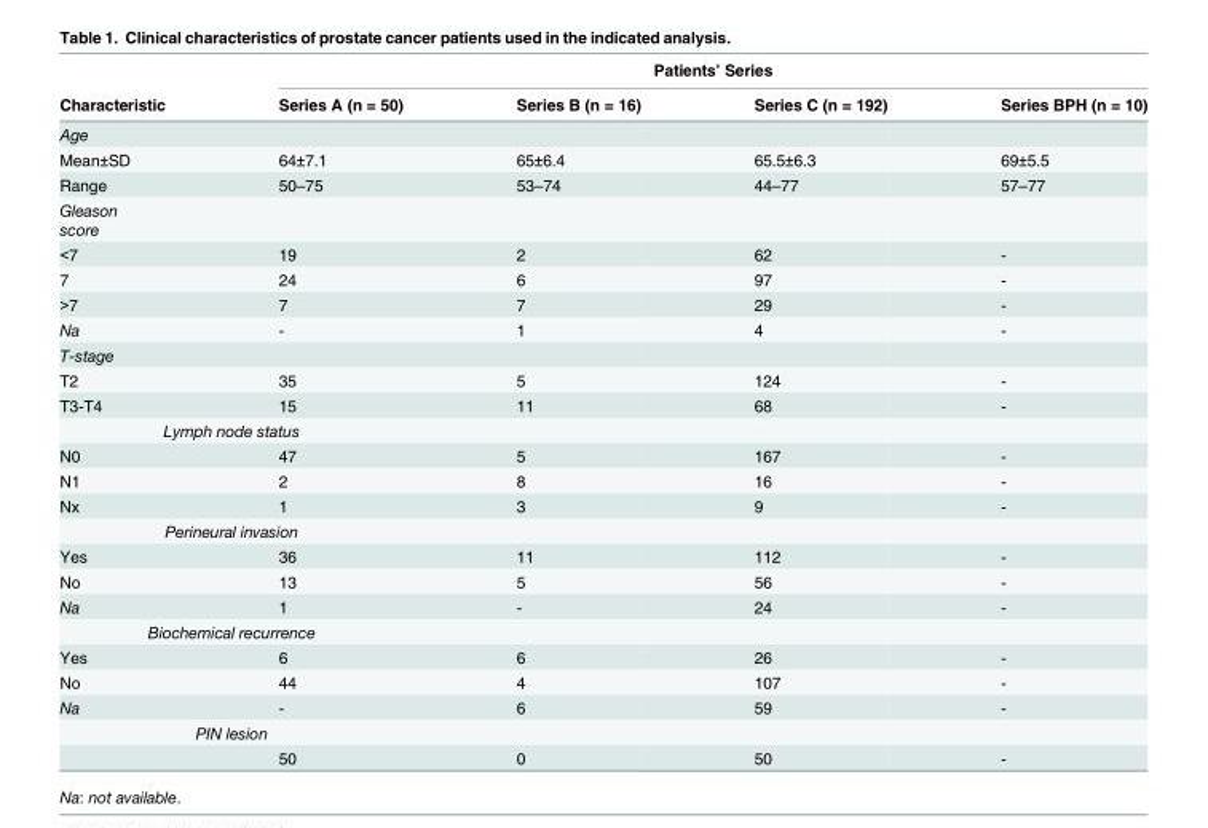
<table><thead><tr><td rowspan="2">Characteristic</td><td colspan="4">Patients’ Series</td></tr><tr><td>Series A (n = 50)</td><td>Series B (n = 16)</td><td>Series C (n = 192)</td><td>Series BPH (n = 10)</td></tr></thead><tbody><tr><td colspan="5">Age</td></tr><tr><td>Mean±SD</td><td>64±7.1</td><td>65±6.4</td><td>65.5±6.3</td><td>69±5.5</td></tr><tr><td>Range</td><td>50–75</td><td>53–74</td><td>44–77</td><td>57–77</td></tr><tr><td colspan="5">Gleason score</td></tr><tr><td>&lt;7</td><td>19</td><td>2</td><td>62</td><td>-</td></tr><tr><td>7</td><td>24</td><td>6</td><td>97</td><td>-</td></tr><tr><td>&gt;7</td><td>7</td><td>7</td><td>29</td><td>-</td></tr><tr><td>Na</td><td>-</td><td>1</td><td>4</td><td>-</td></tr><tr><td colspan="5">T-stage</td></tr><tr><td>T2</td><td>35</td><td>5</td><td>124</td><td>-</td></tr><tr><td>T3-T4</td><td>15</td><td>11</td><td>68</td><td>-</td></tr><tr><td colspan="5">Lymph node status</td></tr><tr><td>N0</td><td>47</td><td>5</td><td>167</td><td>-</td></tr><tr><td>N1</td><td>2</td><td>8</td><td>16</td><td>-</td></tr><tr><td>Nx</td><td>1</td><td>3</td><td>9</td><td>-</td></tr><tr><td colspan="5">Perineural invasion</td></tr><tr><td>Yes</td><td>36</td><td>11</td><td>112</td><td>-</td></tr><tr><td>No</td><td>13</td><td>5</td><td>56</td><td>-</td></tr><tr><td>Na</td><td>1</td><td>-</td><td>24</td><td>-</td></tr><tr><td colspan="5">Biochemical recurrence</td></tr><tr><td>Yes</td><td>6</td><td>6</td><td>26</td><td>-</td></tr><tr><td>No</td><td>44</td><td>4</td><td>107</td><td>-</td></tr><tr><td>Na</td><td>-</td><td>6</td><td>59</td><td>-</td></tr><tr><td colspan="5">PIN lesion</td></tr><tr><td></td><td>50</td><td>0</td><td>50</td><td>-</td></tr></tbody></table>